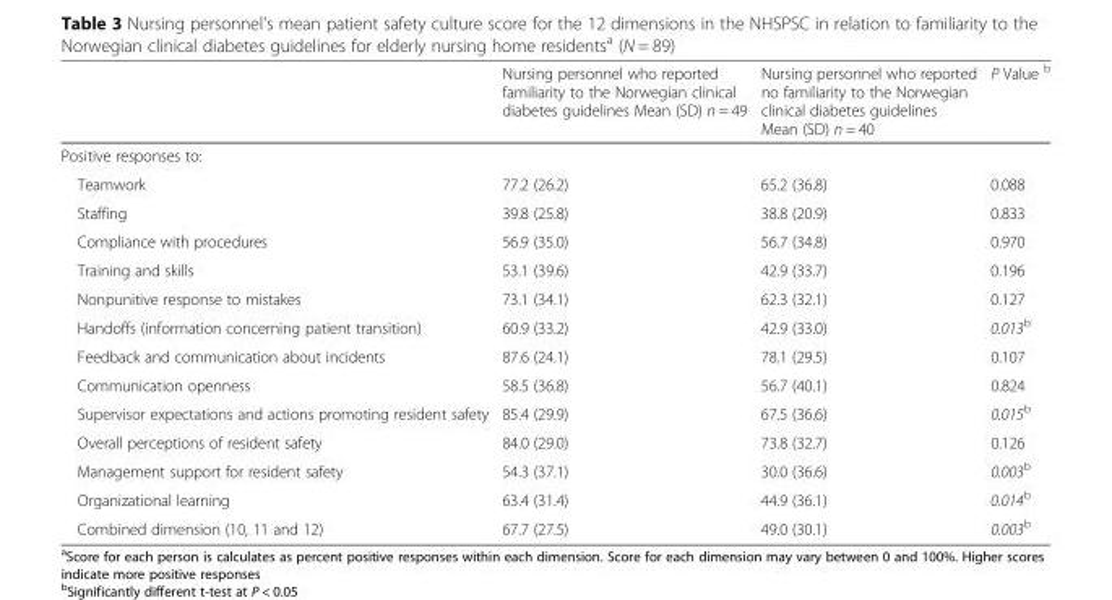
<table><thead><tr><td></td><td>Nursing personnel who reported familiarity to the Norwegian clinical diabetes guidelines Mean (SD) n = 49</td><td>Nursing personnel who reported no familiarity to the Norwegian clinical diabetes guidelines Mean (SD) n = 40</td><td>P Value <sup>b</sup></td></tr></thead><tbody><tr><td colspan="4">Positive responses to:</td></tr><tr><td>Teamwork</td><td>77.2 (26.2)</td><td>65.2 (36.8)</td><td>0.088</td></tr><tr><td>Staffing</td><td>39.8 (25.8)</td><td>38.8 (20.9)</td><td>0.833</td></tr><tr><td>Compliance with procedures</td><td>56.9 (35.0)</td><td>56.7 (34.8)</td><td>0.970</td></tr><tr><td>Training and skills</td><td>53.1 (39.6)</td><td>42.9 (33.7)</td><td>0.196</td></tr><tr><td>Nonpunitive response to mistakes</td><td>73.1 (34.1)</td><td>62.3 (32.1)</td><td>0.127</td></tr><tr><td>Handoffs (information concerning patient transition)</td><td>60.9 (33.2)</td><td>42.9 (33.0)</td><td>0.013<sup>b</sup></td></tr><tr><td>Feedback and communication about incidents</td><td>87.6 (24.1)</td><td>78.1 (29.5)</td><td>0.107</td></tr><tr><td>Communication openness</td><td>58.5 (36.8)</td><td>56.7 (40.1)</td><td>0.824</td></tr><tr><td>Supervisor expectations and actions promoting resident safety</td><td>85.4 (29.9)</td><td>67.5 (36.6)</td><td>0.015<sup>b</sup></td></tr><tr><td>Overall perceptions of resident safety</td><td>84.0 (29.0)</td><td>73.8 (32.7)</td><td>0.126</td></tr><tr><td>Management support for resident safety</td><td>54.3 (37.1)</td><td>30.0 (36.6)</td><td>0.003<sup>b</sup></td></tr><tr><td>Organizational learning</td><td>63.4 (31.4)</td><td>44.9 (36.1)</td><td>0.014<sup>b</sup></td></tr><tr><td>Combined dimension (10, 11 and 12)</td><td>67.7 (27.5)</td><td>49.0 (30.1)</td><td>0.003<sup>b</sup></td></tr></tbody></table>